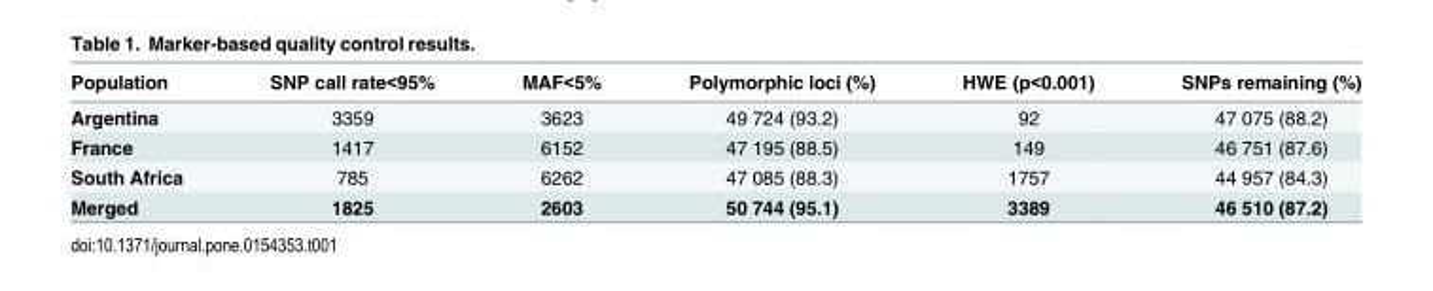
<table><thead><tr><td>Population</td><td>SNP call rate&lt;95%</td><td>MAF&lt;5%</td><td>Polymorphic loci (%)</td><td>HWE (p&lt;0.001)</td><td>SNPs remaining (%)</td></tr></thead><tbody><tr><td>Argentina</td><td>3359</td><td>3623</td><td>49 724 (93.2)</td><td>92</td><td>47 075 (88.2)</td></tr><tr><td>France</td><td>1417</td><td>6152</td><td>47 195 (88.5)</td><td>149</td><td>46 751 (87.6)</td></tr><tr><td>South Africa</td><td>785</td><td>6262</td><td>47 085 (88.3)</td><td>1757</td><td>44 957 (84.3)</td></tr><tr><td>Merged</td><td>1825</td><td>2603</td><td>50 744 (95.1)</td><td>3389</td><td>46 510 (87.2)</td></tr></tbody></table>